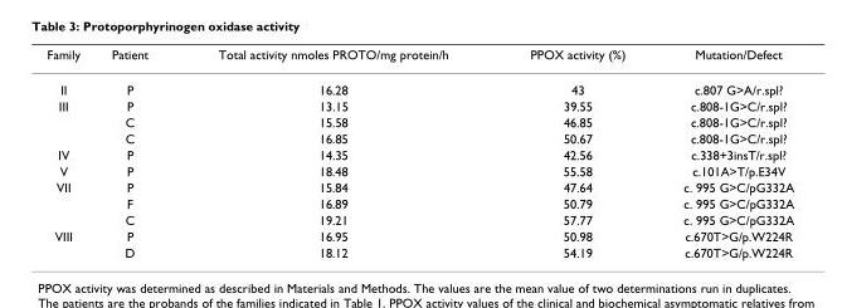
<table><thead><tr><td>Family</td><td>Patient</td><td>Total activity nmoles PROTO/mg protein/h</td><td>PPOX activity (%)</td><td>Mutation/Defect</td></tr></thead><tbody><tr><td>II</td><td>P</td><td>16.28</td><td>43</td><td>c.807 G&gt;A/r.spl?</td></tr><tr><td rowspan="3">III</td><td>P</td><td>13.15</td><td>39.55</td><td>c.808-1G&gt;C/r.spl?</td></tr><tr><td>C</td><td>15.58</td><td>46.85</td><td>c.808-1G&gt;C/r.spl?</td></tr><tr><td>C</td><td>16.85</td><td>50.67</td><td>c.808-1G&gt;C/r.spl?</td></tr><tr><td>IV</td><td>P</td><td>14.35</td><td>42.56</td><td>c.338+3insT/r.spl?</td></tr><tr><td>V</td><td>P</td><td>18.48</td><td>55.58</td><td>c.101A&gt;T/p.E34V</td></tr><tr><td rowspan="3">VII</td><td>P</td><td>15.84</td><td>47.64</td><td>c. 995 G&gt;C/pG332A</td></tr><tr><td>F</td><td>16.89</td><td>50.79</td><td>c. 995 G&gt;C/pG332A</td></tr><tr><td>C</td><td>19.21</td><td>57.77</td><td>c. 995 G&gt;C/pG332A</td></tr><tr><td rowspan="2">VIII</td><td>P</td><td>16.95</td><td>50.98</td><td>c.670T&gt;G/p.W224R</td></tr><tr><td>D</td><td>18.12</td><td>54.19</td><td>c.670T&gt;G/p.W224R</td></tr></tbody></table>